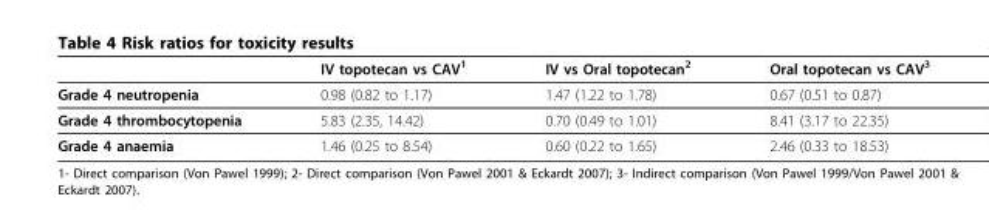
<table><thead><tr><td></td><td>IV topotecan vs CAV<sup>1</sup></td><td>IV vs Oral topotecan<sup>2</sup></td><td>Oral topotecan vs CAV<sup>3</sup></td></tr></thead><tbody><tr><td>Grade 4 neutropenia</td><td>0.98 (0.82 to 1.17)</td><td>1.47 (1.22 to 1.78)</td><td>0.67 (0.51 to 0.87)</td></tr><tr><td>Grade 4 thrombocytopenia</td><td>5.83 (2.35, 14.42)</td><td>0.70 (0.49 to 1.01)</td><td>8.41 (3.17 to 22.35)</td></tr><tr><td>Grade 4 anaemia</td><td>1.46 (0.25 to 8.54)</td><td>0.60 (0.22 to 1.65)</td><td>2.46 (0.33 to 18.53)</td></tr></tbody></table>